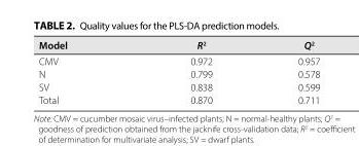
<table><thead><tr><td>Model</td><td>R<sup>2</sup></td><td>Q<sup>2</sup></td></tr></thead><tbody><tr><td>CMV</td><td>0.972</td><td>0.957</td></tr><tr><td>N</td><td>0.799</td><td>0.578</td></tr><tr><td>SV</td><td>0.838</td><td>0.599</td></tr><tr><td>Total</td><td>0.870</td><td>0.711</td></tr></tbody></table>